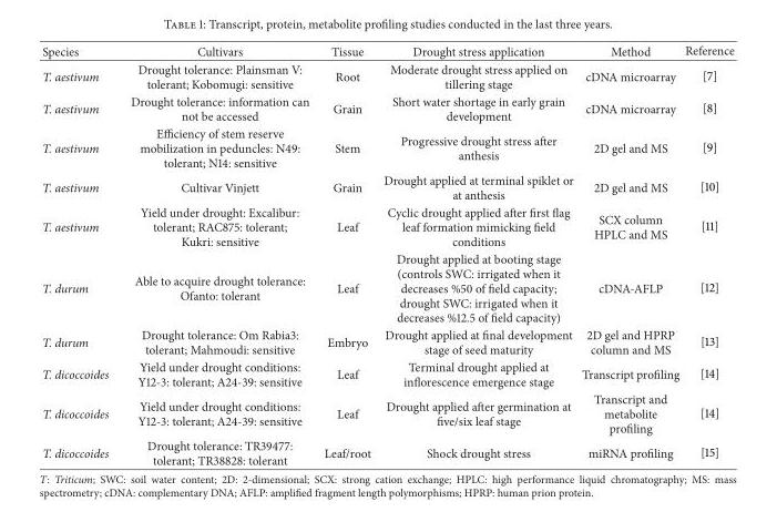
<table><thead><tr><td>Species</td><td>Cultivars</td><td>Tissue</td><td>Drought stress application</td><td>Method</td><td>Reference</td></tr></thead><tbody><tr><td>T. aestivum</td><td>Drought tolerance: Plainsman V: tolerant; Kobomugi: sensitive</td><td>Root</td><td>Moderate drought stress applied on tillering stage</td><td>cDNA microarray</td><td>[7]</td></tr><tr><td>T. aestivum</td><td>Drought tolerance: information can not be accessed</td><td>Grain</td><td>Short water shortage in early grain development</td><td>cDNA microarray</td><td>[8]</td></tr><tr><td>T. aestivum</td><td>Efficiency of stem reserve mobilization in peduncles: N49: tolerant; N14: sensitive</td><td>Stem</td><td>Progressive drought stress after anthesis</td><td>2D gel and MS</td><td>[9]</td></tr><tr><td>T. aestivum</td><td>Cultivar Vinjett</td><td>Grain</td><td>Drought applied at terminal spiklet or at anthesis</td><td>2D gel and MS</td><td>[10]</td></tr><tr><td>T. aestivum</td><td>Yield under drought: Excalibur: tolerant; RAC875: tolerant; Kukri: sensitive</td><td>Leaf</td><td>Cyclic drought applied after first flag leaf formation mimicking field conditions</td><td>SCX column HPLC and MS</td><td>[11]</td></tr><tr><td>T. durum</td><td>Able to acquire drought tolerance: Ofanto: tolerant</td><td>Leaf</td><td>Drought applied at booting stage (controls SWC: irrigated when it decreases %50 of field capacity; drought SWC: irrigated when it decreases %12.5 of field capacity)</td><td>cDNA-AFLP</td><td>[12]</td></tr><tr><td>T. durum</td><td>Drought tolerance: Om Rabia3: tolerant; Mahmoudi: sensitive</td><td>Embryo</td><td>Drought applied at final development stage of seed maturity</td><td>2D gel and HPRP column and MS</td><td>[13]</td></tr><tr><td>T. dicoccoides</td><td>Yield under drought conditions: Y12-3: tolerant; A24-39: sensitive</td><td>Leaf</td><td>Terminal drought applied at inflorescence emergence stage</td><td>Transcript profiling</td><td>[14]</td></tr><tr><td>T. dicoccoides</td><td>Yield under drought conditions: Y12-3: tolerant; A24-39: sensitive</td><td>Leaf</td><td>Drought applied after germination at five/six leaf stage</td><td>Transcript and metabolite profiling</td><td>[14]</td></tr><tr><td>T. dicoccoides</td><td>Drought tolerance: TR39477: tolerant; TR38828: tolerant</td><td>Leaf/root</td><td>Shock drought stress</td><td>miRNA profiling</td><td>[15]</td></tr></tbody></table>